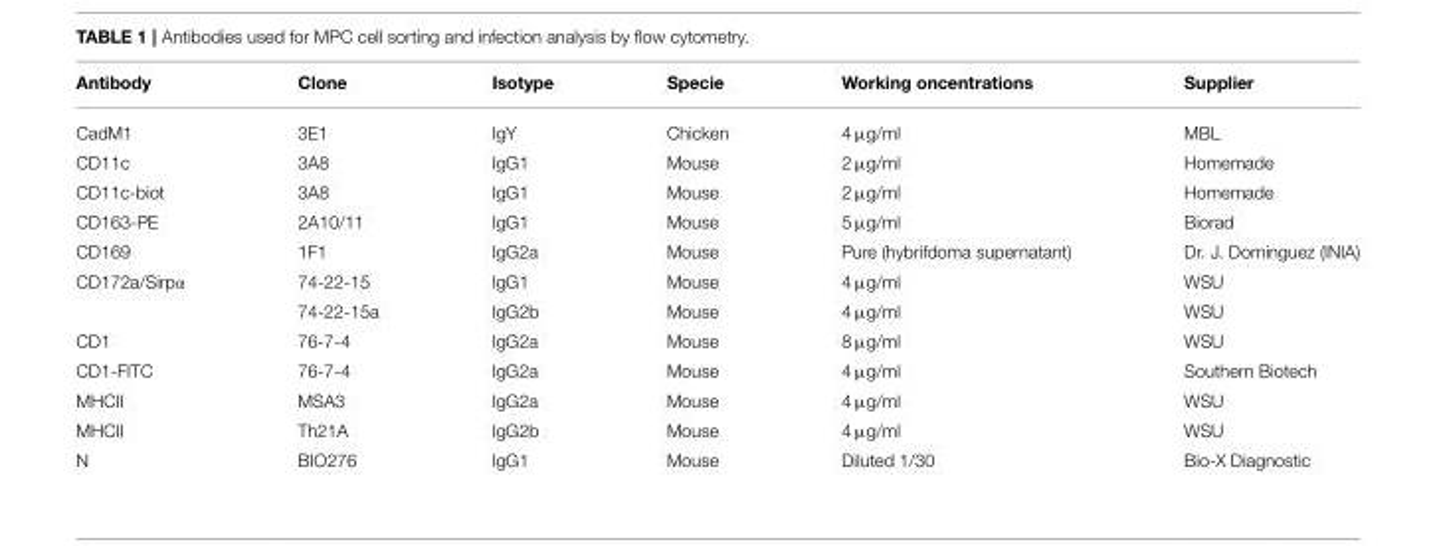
<table><thead><tr><td>Antibody</td><td>Clone</td><td>Isotype</td><td>Specie</td><td>Working oncentrations</td><td>Supplier</td></tr></thead><tbody><tr><td>CadM1</td><td>3E1</td><td>IgY</td><td>Chicken</td><td>4 µg/ml</td><td>MBL</td></tr><tr><td>CD11c</td><td>3A8</td><td>IgG1</td><td>Mouse</td><td>2 µg/ml</td><td>Homemade</td></tr><tr><td>CD11c-biot</td><td>3A8</td><td>IgG1</td><td>Mouse</td><td>2 µg/ml</td><td>Homemade</td></tr><tr><td>CD163-PE</td><td>2A10/11</td><td>IgG1</td><td>Mouse</td><td>5 µg/ml</td><td>Biorad</td></tr><tr><td>CD169</td><td>1F1</td><td>IgG2a</td><td>Mouse</td><td>Pure (hybrifdoma supernatant)</td><td>Dr. J. Dominguez (INIA)</td></tr><tr><td rowspan="2">CD172a/Sirpα</td><td>74-22-15</td><td>IgG1</td><td>Mouse</td><td>4 µg/ml</td><td>WSU</td></tr><tr><td>74-22-15a</td><td>IgG2b</td><td>Mouse</td><td>4 µg/ml</td><td>WSU</td></tr><tr><td>CD1</td><td>76-7-4</td><td>IgG2a</td><td>Mouse</td><td>8 µg/ml</td><td>WSU</td></tr><tr><td>CD1-FITC</td><td>76-7-4</td><td>IgG2a</td><td>Mouse</td><td>4 µg/ml</td><td>Southern Biotech</td></tr><tr><td>MHCII</td><td>MSA3</td><td>IgG2a</td><td>Mouse</td><td>4 µg/ml</td><td>WSU</td></tr><tr><td>MHCII</td><td>Th21A</td><td>IgG2b</td><td>Mouse</td><td>4 µg/ml</td><td>WSU</td></tr><tr><td>N</td><td>BIO276</td><td>IgG1</td><td>Mouse</td><td>Diluted 1/30</td><td>Bio-X Diagnostic</td></tr></tbody></table>